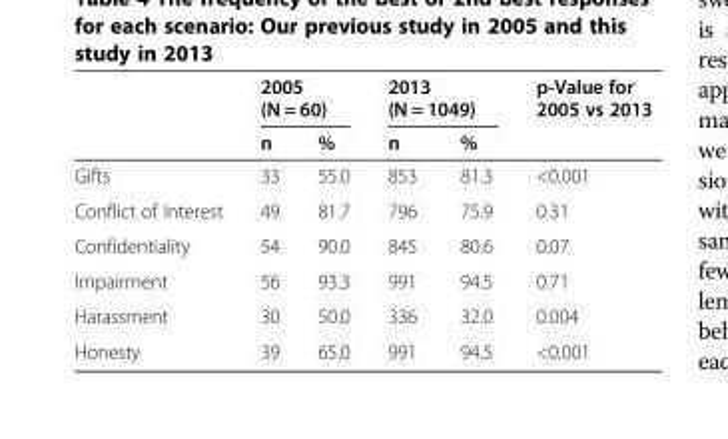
<table><thead><tr><td rowspan="2"></td><td colspan="2">2005 (N = 60)</td><td colspan="2">2013 (N = 1049)</td><td rowspan="2">p-Value for 2005 vs 2013</td></tr><tr><td>n</td><td>%</td><td>n</td><td>%</td></tr></thead><tbody><tr><td>Gifts</td><td>33</td><td>55.0</td><td>853</td><td>81.3</td><td>&lt;0.001</td></tr><tr><td>Conflict of Interest</td><td>49</td><td>81.7</td><td>796</td><td>75.9</td><td>0.31</td></tr><tr><td>Confidentiality</td><td>54</td><td>90.0</td><td>845</td><td>80.6</td><td>0.07</td></tr><tr><td>Impairment</td><td>56</td><td>93.3</td><td>991</td><td>94.5</td><td>0.71</td></tr><tr><td>Harassment</td><td>30</td><td>50.0</td><td>336</td><td>32.0</td><td>0.004</td></tr><tr><td>Honesty</td><td>39</td><td>65.0</td><td>991</td><td>94.5</td><td>&lt;0.001</td></tr></tbody></table>